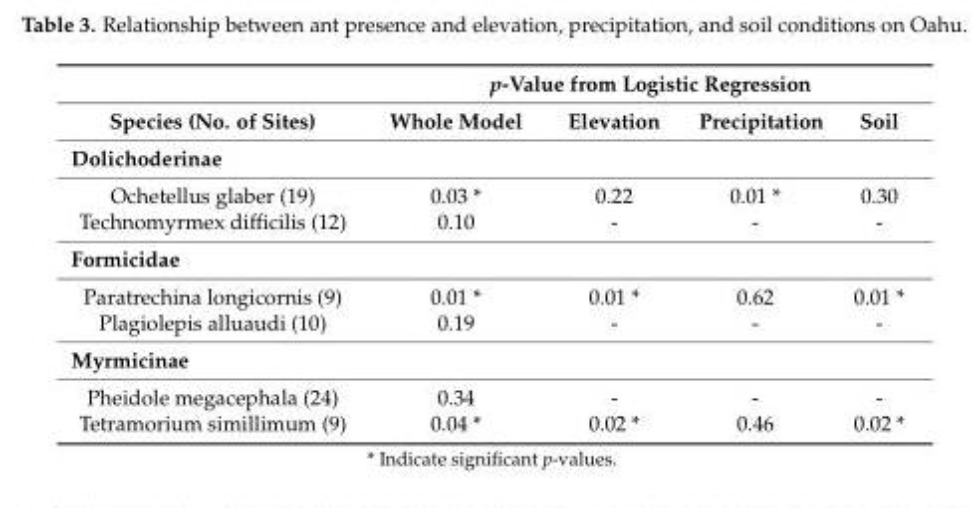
<table><thead><tr><td rowspan="2">Species (No. of Sites)</td><td colspan="4">p-Value from Logistic Regression</td></tr><tr><td>Whole Model</td><td>Elevation</td><td>Precipitation</td><td>Soil</td></tr></thead><tbody><tr><td colspan="5">Dolichoderinae</td></tr><tr><td>Ochetellus glaber (19)</td><td>0.03 *</td><td>0.22</td><td>0.01 *</td><td>0.30</td></tr><tr><td>Technomyrmex difficilis (12)</td><td>0.10</td><td>-</td><td>-</td><td>-</td></tr><tr><td colspan="5">Formicidae</td></tr><tr><td>Paratrechina longicornis (9)</td><td>0.01 *</td><td>0.01 *</td><td>0.62</td><td>0.01 *</td></tr><tr><td>Plagiolepis alluaudi (10)</td><td>0.19</td><td>-</td><td>-</td><td>-</td></tr><tr><td colspan="5">Myrmicinae</td></tr><tr><td>Pheidole megacephala (24)</td><td>0.34</td><td>-</td><td>-</td><td>-</td></tr><tr><td>Tetramorium simillimum (9)</td><td>0.04 *</td><td>0.02 *</td><td>0.46</td><td>0.02 *</td></tr></tbody></table>